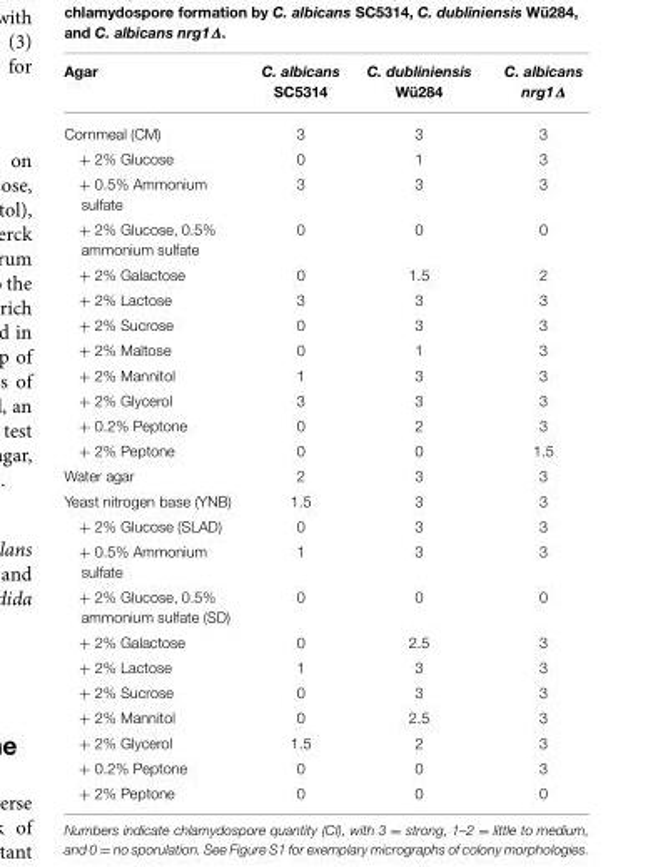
<table><thead><tr><td>Agar</td><td>C. albicans SC5314</td><td>C. dubliniensis Wü284</td><td>C. albicans nrg1∆</td></tr></thead><tbody><tr><td>Cornmeal (CM)</td><td>3</td><td>3</td><td>3</td></tr><tr><td>+ 2% Glucose</td><td>0</td><td>1</td><td>3</td></tr><tr><td>+ 0.5% Ammonium sulfate</td><td>3</td><td>3</td><td>3</td></tr><tr><td>+ 2% Glucose, 0.5% ammonium sulfate</td><td>0</td><td>0</td><td>0</td></tr><tr><td>+ 2% Galactose</td><td>0</td><td>1.5</td><td>2</td></tr><tr><td>+ 2% Lactose</td><td>3</td><td>3</td><td>3</td></tr><tr><td>+ 2% Sucrose</td><td>0</td><td>3</td><td>3</td></tr><tr><td>+ 2% Maltose</td><td>0</td><td>1</td><td>3</td></tr><tr><td>+ 2% Mannitol</td><td>1</td><td>3</td><td>3</td></tr><tr><td>+ 2% Glycerol</td><td>3</td><td>3</td><td>3</td></tr><tr><td>+ 0.2% Peptone</td><td>0</td><td>2</td><td>3</td></tr><tr><td>+ 2% Peptone</td><td>0</td><td>0</td><td>1.5</td></tr><tr><td>Water agar</td><td>2</td><td>3</td><td>3</td></tr><tr><td>Yeast nitrogen base (YNB)</td><td>1.5</td><td>3</td><td>3</td></tr><tr><td>+ 2% Glucose (SLAD)</td><td>0</td><td>3</td><td>3</td></tr><tr><td>+ 0.5% Ammonium sulfate</td><td>1</td><td>3</td><td>3</td></tr><tr><td>+ 2% Glucose, 0.5% ammonium sulfate (SD)</td><td>0</td><td>0</td><td>0</td></tr><tr><td>+ 2% Galactose</td><td>0</td><td>2.5</td><td>3</td></tr><tr><td>+ 2% Lactose</td><td>1</td><td>3</td><td>3</td></tr><tr><td>+ 2% Sucrose</td><td>0</td><td>3</td><td>3</td></tr><tr><td>+ 2% Mannitol</td><td>0</td><td>2.5</td><td>3</td></tr><tr><td>+ 2% Glycerol</td><td>1.5</td><td>2</td><td>3</td></tr><tr><td>+ 0.2% Peptone</td><td>0</td><td>0</td><td>3</td></tr><tr><td>+ 2% Peptone</td><td>0</td><td>0</td><td>0</td></tr></tbody></table>